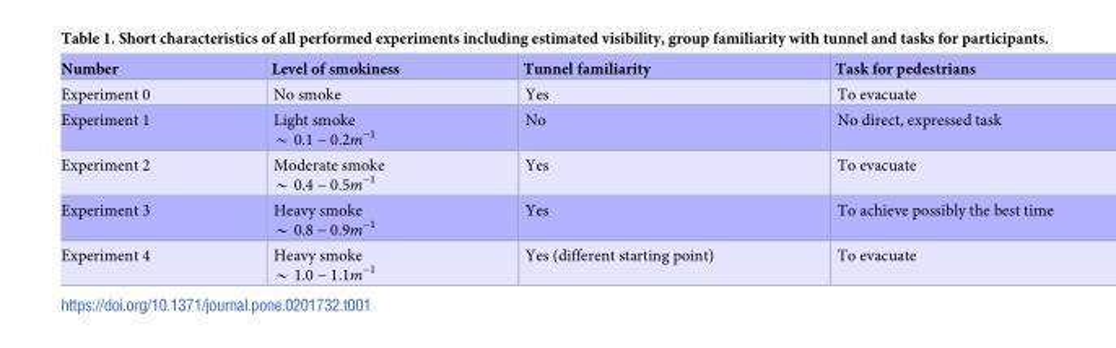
<table><thead><tr><td>Number</td><td>Level of smokiness</td><td>Tunnel familiarity</td><td>Task for pedestrians</td></tr></thead><tbody><tr><td>Experiment 0</td><td>No smoke</td><td>Yes</td><td>To evacuate</td></tr><tr><td>Experiment 1</td><td>Light smoke * 0.1 − 0.2m−1</td><td>No</td><td>No direct, expressed task</td></tr><tr><td>Experiment 2</td><td>Moderate smoke * 0.4 − 0.5m−1</td><td>Yes</td><td>To evacuate</td></tr><tr><td>Experiment 3</td><td>Heavy smoke * 0.8 − 0.9m−1</td><td>Yes</td><td>To achieve possibly the best time</td></tr><tr><td>Experiment 4</td><td>Heavy smoke * 1.0 − 1.1m−1</td><td>Yes (different starting point)</td><td>To evacuate</td></tr></tbody></table>